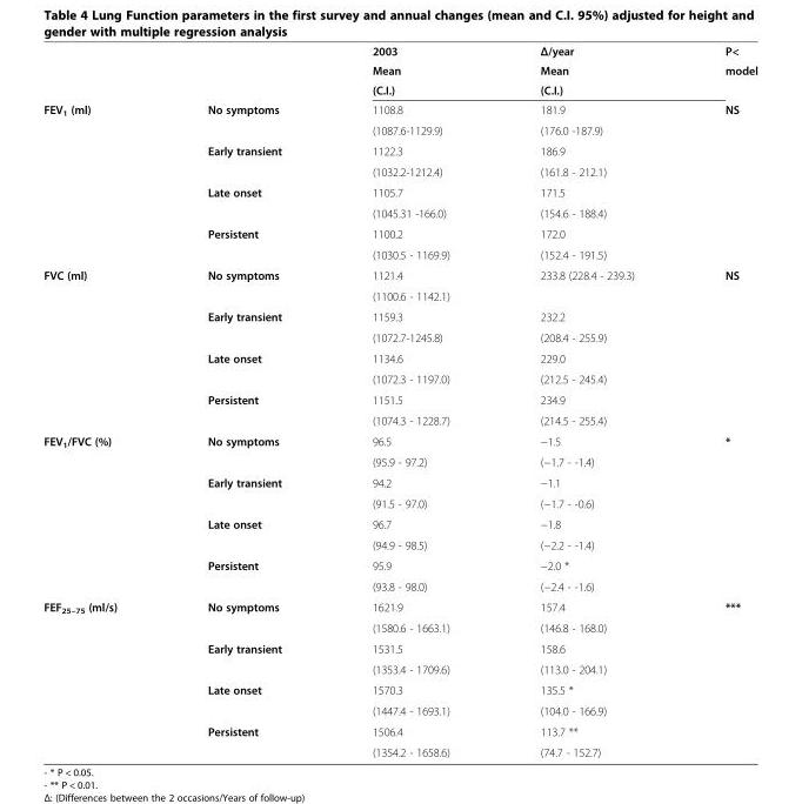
<table><thead><tr><td rowspan="3"></td><td rowspan="3"></td><td rowspan="3">2003 Mean (C.I.)</td><td rowspan="3">Δ/year Mean (C.I.)</td><td rowspan="3">P&lt; model</td></tr><tr></tr><tr></tr></thead><tbody><tr><td rowspan="8">FEV<sub>1</sub> (ml)</td><td rowspan="2">No symptoms</td><td>1108.8</td><td>181.9</td><td rowspan="8">NS</td></tr><tr><td>(1087.6-1129.9)</td><td>(176.0 -187.9)</td></tr><tr><td rowspan="2">Early transient</td><td>1122.3</td><td>186.9</td></tr><tr><td>(1032.2-1212.4)</td><td>(161.8 - 212.1)</td></tr><tr><td rowspan="2">Late onset</td><td>1105.7</td><td>171.5</td></tr><tr><td>(1045.31 -166.0)</td><td>(154.6 - 188.4)</td></tr><tr><td rowspan="2">Persistent</td><td>1100.2</td><td>172.0</td></tr><tr><td>(1030.5 - 1169.9)</td><td>(152.4 - 191.5)</td></tr><tr><td rowspan="8">FVC (ml)</td><td rowspan="2">No symptoms</td><td>1121.4</td><td rowspan="2">233.8 (228.4 - 239.3)</td><td rowspan="8">NS</td></tr><tr><td>(1100.6 - 1142.1)</td></tr><tr><td rowspan="2">Early transient</td><td>1159.3</td><td>232.2</td></tr><tr><td>(1072.7-1245.8)</td><td>(208.4 - 255.9)</td></tr><tr><td rowspan="2">Late onset</td><td>1134.6</td><td>229.0</td></tr><tr><td>(1072.3 - 1197.0)</td><td>(212.5 - 245.4)</td></tr><tr><td rowspan="2">Persistent</td><td>1151.5</td><td>234.9</td></tr><tr><td>(1074.3 - 1228.7)</td><td>(214.5 - 255.4)</td></tr><tr><td rowspan="8">FEV<sub>1</sub>/FVC (%)</td><td rowspan="2">No symptoms</td><td>96.5</td><td>−1.5</td><td rowspan="8">*</td></tr><tr><td>(95.9 - 97.2)</td><td>(−1.7 - -1.4)</td></tr><tr><td rowspan="2">Early transient</td><td>94.2</td><td>−1.1</td></tr><tr><td>(91.5 - 97.0)</td><td>(−1.7 - -0.6)</td></tr><tr><td rowspan="2">Late onset</td><td>96.7</td><td>−1.8</td></tr><tr><td>(94.9 - 98.5)</td><td>(−2.2 - -1.4)</td></tr><tr><td rowspan="2">Persistent</td><td>95.9</td><td>−2.0 *</td></tr><tr><td>(93.8 - 98.0)</td><td>(−2.4 - -1.6)</td></tr><tr><td rowspan="8">FEF<sub>25–75</sub> (ml/s)</td><td rowspan="2">No symptoms</td><td>1621.9</td><td>157.4</td><td rowspan="8">***</td></tr><tr><td>(1580.6 - 1663.1)</td><td>(146.8 - 168.0)</td></tr><tr><td rowspan="2">Early transient</td><td>1531.5</td><td>158.6</td></tr><tr><td>(1353.4 - 1709.6)</td><td>(113.0 - 204.1)</td></tr><tr><td rowspan="2">Late onset</td><td>1570.3</td><td>135.5 *</td></tr><tr><td>(1447.4 - 1693.1)</td><td>(104.0 - 166.9)</td></tr><tr><td rowspan="2">Persistent</td><td>1506.4</td><td>113.7 **</td></tr><tr><td>(1354.2 - 1658.6)</td><td>(74.7 - 152.7)</td></tr></tbody></table>